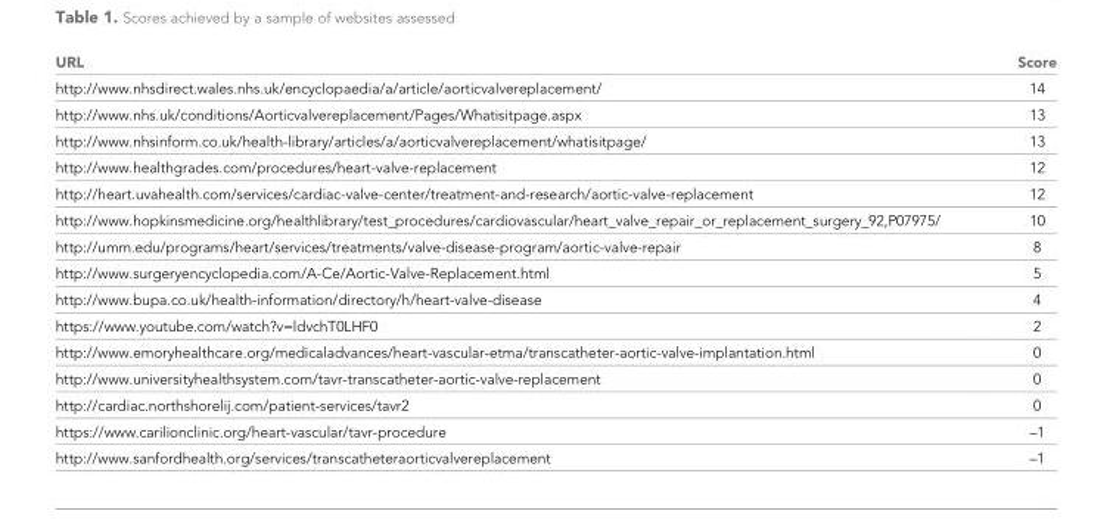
<table><thead><tr><td>URL</td><td>Score</td></tr></thead><tbody><tr><td>http://www.nhsdirect.wales.nhs.uk/encyclopaedia/a/article/aorticvalvereplacement/</td><td>14</td></tr><tr><td>http://www.nhs.uk/conditions/Aorticvalvereplacement/Pages/Whatisitpage.aspx</td><td>13</td></tr><tr><td>http://www.nhsinform.co.uk/health-library/articles/a/aorticvalvereplacement/whatisitpage/</td><td>13</td></tr><tr><td>http://www.healthgrades.com/procedures/heart-valve-replacement</td><td>12</td></tr><tr><td>http://heart.uvahealth.com/services/cardiac-valve-center/treatment-and-research/aortic-valve-replacement</td><td>12</td></tr><tr><td>http://www.hopkinsmedicine.org/healthlibrary/test_procedures/cardiovascular/heart_valve_repair_or_replacement_surgery_92,P07975/</td><td>10</td></tr><tr><td>http://umm.edu/programs/heart/services/treatments/valve-disease-program/aortic-valve-repair</td><td>8</td></tr><tr><td>http://www.surgeryencyclopedia.com/A-Ce/Aortic-Valve-Replacement.html</td><td>5</td></tr><tr><td>http://www.bupa.co.uk/health-information/directory/h/heart-valve-disease</td><td>4</td></tr><tr><td>https://www.youtube.com/watch?v=ldvchT0LHF0</td><td>2</td></tr><tr><td>http://www.emoryhealthcare.org/medicaladvances/heart-vascular-etma/transcatheter-aortic-valve-implantation.html</td><td>0</td></tr><tr><td>http://www.universityhealthsystem.com/tavr-transcatheter-aortic-valve-replacement</td><td>0</td></tr><tr><td>http://cardiac.northshorelij.com/patient-services/tavr2</td><td>0</td></tr><tr><td>https://www.carilionclinic.org/heart-vascular/tavr-procedure</td><td>–1</td></tr><tr><td>http://www.sanfordhealth.org/services/transcatheteraorticvalvereplacement</td><td>–1</td></tr></tbody></table>